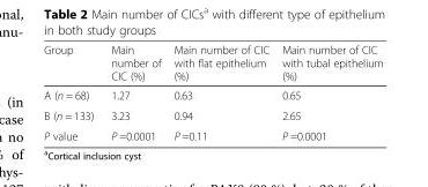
<table><thead><tr><td>Group</td><td>Main number of CIC (%)</td><td>Main number of CIC with flat epithelium (%)</td><td>Main number of CIC with tubal epithelium (%)</td></tr></thead><tbody><tr><td>A (n = 68)</td><td>1.27</td><td>0.63</td><td>0.65</td></tr><tr><td>B (n = 133)</td><td>3.23</td><td>0.94</td><td>2.65</td></tr><tr><td>P value</td><td>P =0.0001</td><td>P =0.11</td><td>P =0.0001</td></tr></tbody></table>